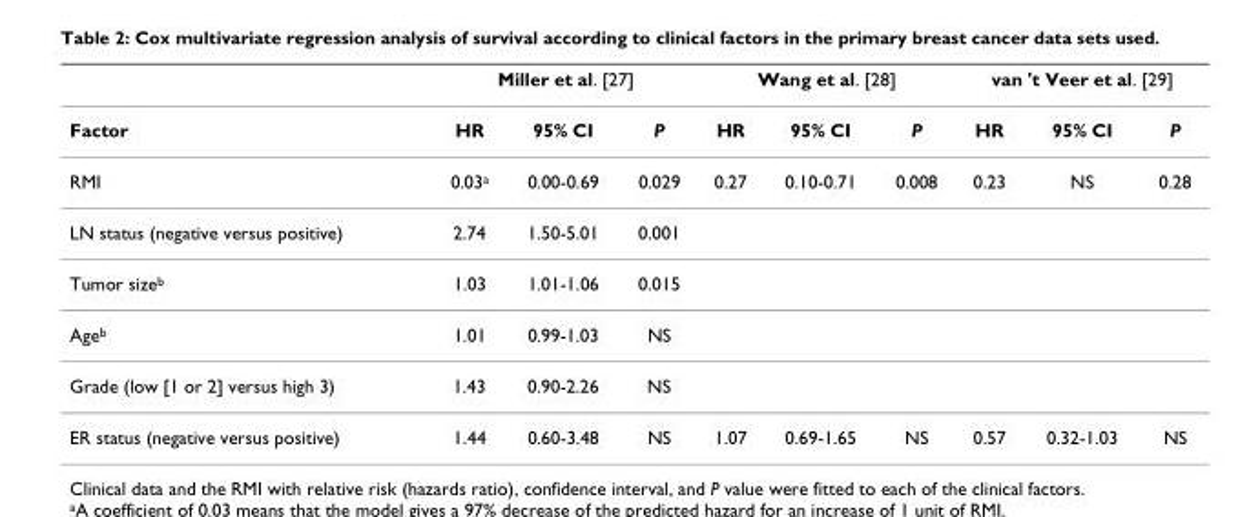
<table><thead><tr><td rowspan="2">Factor</td><td colspan="3">Miller et al. [27]</td><td colspan="3">Wang et al. [28]</td><td colspan="3">van &#x27;t Veer et al. [29]</td></tr><tr><td>HR</td><td>95% CI</td><td>P</td><td>HR</td><td>95% CI</td><td>P</td><td>HR</td><td>95% CI</td><td>P</td></tr></thead><tbody><tr><td>RMI</td><td>0.03<sup>a</sup></td><td>0.00-0.69</td><td>0.029</td><td>0.27</td><td>0.10-0.71</td><td>0.008</td><td>0.23</td><td>NS</td><td>0.28</td></tr><tr><td>LN status (negative versus positive)</td><td>2.74</td><td>1.50-5.01</td><td>0.001</td><td></td><td></td><td></td><td></td><td></td><td></td></tr><tr><td>Tumor size<sup>b</sup></td><td>1.03</td><td>1.01-1.06</td><td>0.015</td><td></td><td></td><td></td><td></td><td></td><td></td></tr><tr><td>Age<sup>b</sup></td><td>1.01</td><td>0.99-1.03</td><td>NS</td><td></td><td></td><td></td><td></td><td></td><td></td></tr><tr><td>Grade (low [1 or 2] versus high 3)</td><td>1.43</td><td>0.90-2.26</td><td>NS</td><td></td><td></td><td></td><td></td><td></td><td></td></tr><tr><td>ER status (negative versus positive)</td><td>1.44</td><td>0.60-3.48</td><td>NS</td><td>1.07</td><td>0.69-1.65</td><td>NS</td><td>0.57</td><td>0.32-1.03</td><td>NS</td></tr></tbody></table>